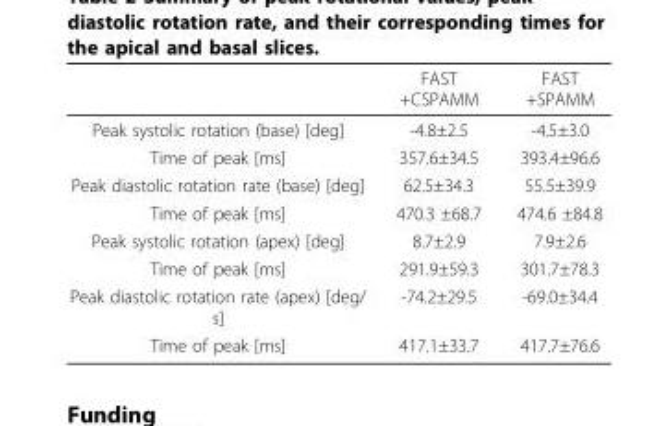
<table><thead><tr><td></td><td>FAST +CSPAMM</td><td>FAST +SPAMM</td></tr></thead><tbody><tr><td>Peak systolic rotation (base) [deg]</td><td>-4.8±2.5</td><td>-4.5±3.0</td></tr><tr><td>Time of peak [ms]</td><td>357.6±34.5</td><td>393.4±96.6</td></tr><tr><td>Peak diastolic rotation rate (base) [deg]</td><td>62.5±34.3</td><td>55.5±39.9</td></tr><tr><td>Time of peak [ms]</td><td>470.3 ±68.7</td><td>474.6 ±84.8</td></tr><tr><td>Peak systolic rotation (apex) [deg]</td><td>8.7±2.9</td><td>7.9±2.6</td></tr><tr><td>Time of peak [ms]</td><td>291.9±59.3</td><td>301.7±78.3</td></tr><tr><td>Peak diastolic rotation rate (apex) [deg/ s]</td><td>-74.2±29.5</td><td>-69.0±34.4</td></tr><tr><td>Time of peak [ms]</td><td>417.1±33.7</td><td>417.7±76.6</td></tr></tbody></table>